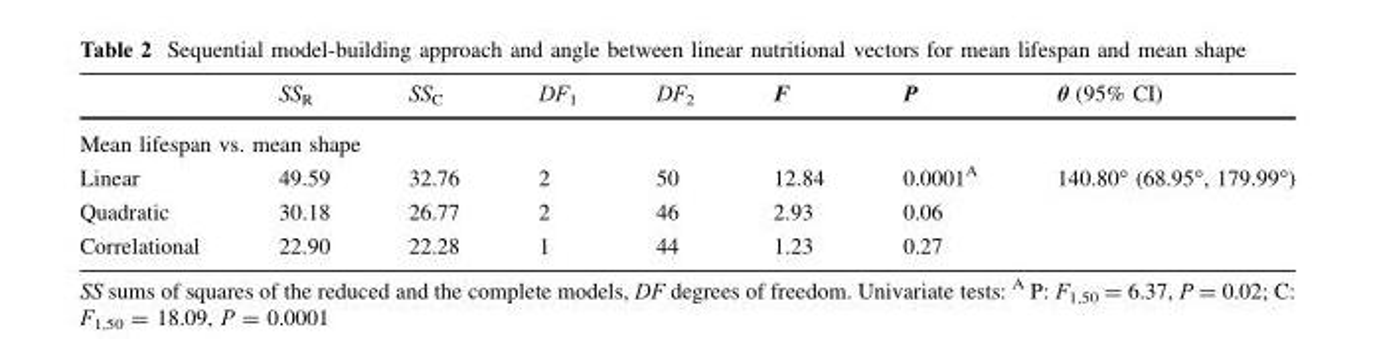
<table><thead><tr><td></td><td>SS<sub>R</sub></td><td>SS<sub>C</sub></td><td>DF<sub>1</sub></td><td>DF<sub>2</sub></td><td>F</td><td>P</td><td>θ (95% CI)</td></tr></thead><tbody><tr><td colspan="8">Mean lifespan vs. mean shape</td></tr><tr><td>Linear</td><td>49.59</td><td>32.76</td><td>2</td><td>50</td><td>12.84</td><td>0.0001<sup>A</sup></td><td rowspan="3">140.80° (68.95°, 179.99°)</td></tr><tr><td>Quadratic</td><td>30.18</td><td>26.77</td><td>2</td><td>46</td><td>2.93</td><td>0.06</td></tr><tr><td>Correlational</td><td>22.90</td><td>22.28</td><td>1</td><td>44</td><td>1.23</td><td>0.27</td></tr></tbody></table>